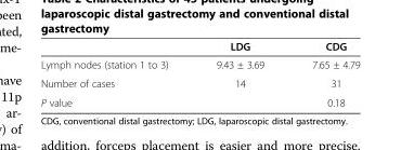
<table><thead><tr><td></td><td>LDG</td><td>CDG</td></tr></thead><tbody><tr><td>Lymph nodes (station 1 to 3)</td><td>9.43 ± 3.69</td><td>7.65 ± 4.79</td></tr><tr><td>Number of cases</td><td>14</td><td>31</td></tr><tr><td>P value</td><td></td><td>0.18</td></tr></tbody></table>